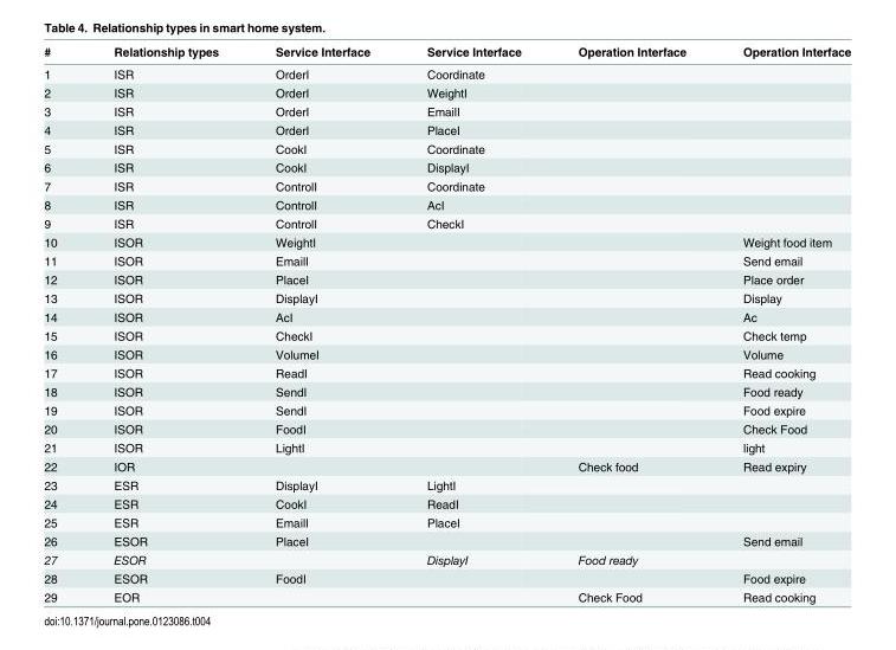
<table><thead><tr><td>#</td><td>Relationship types</td><td>Service Interface</td><td>Service Interface</td><td>Operation Interface</td><td>Operation Interface</td></tr></thead><tbody><tr><td>1</td><td>ISR</td><td>OrderI</td><td>Coordinate</td><td></td><td></td></tr><tr><td>2</td><td>ISR</td><td>OrderI</td><td>WeightI</td><td></td><td></td></tr><tr><td>3</td><td>ISR</td><td>OrderI</td><td>EmailI</td><td></td><td></td></tr><tr><td>4</td><td>ISR</td><td>OrderI</td><td>PlaceI</td><td></td><td></td></tr><tr><td>5</td><td>ISR</td><td>CookI</td><td>Coordinate</td><td></td><td></td></tr><tr><td>6</td><td>ISR</td><td>CookI</td><td>DisplayI</td><td></td><td></td></tr><tr><td>7</td><td>ISR</td><td>ControlI</td><td>Coordinate</td><td></td><td></td></tr><tr><td>8</td><td>ISR</td><td>ControlI</td><td>AcI</td><td></td><td></td></tr><tr><td>9</td><td>ISR</td><td>ControlI</td><td>CheckI</td><td></td><td></td></tr><tr><td>10</td><td>ISOR</td><td>WeightI</td><td></td><td></td><td>Weight food item</td></tr><tr><td>11</td><td>ISOR</td><td>EmailI</td><td></td><td></td><td>Send email</td></tr><tr><td>12</td><td>ISOR</td><td>PlaceI</td><td></td><td></td><td>Place order</td></tr><tr><td>13</td><td>ISOR</td><td>DisplayI</td><td></td><td></td><td>Display</td></tr><tr><td>14</td><td>ISOR</td><td>AcI</td><td></td><td></td><td>Ac</td></tr><tr><td>15</td><td>ISOR</td><td>CheckI</td><td></td><td></td><td>Check temp</td></tr><tr><td>16</td><td>ISOR</td><td>VolumeI</td><td></td><td></td><td>Volume</td></tr><tr><td>17</td><td>ISOR</td><td>ReadI</td><td></td><td></td><td>Read cooking</td></tr><tr><td>18</td><td>ISOR</td><td>SendI</td><td></td><td></td><td>Food ready</td></tr><tr><td>19</td><td>ISOR</td><td>SendI</td><td></td><td></td><td>Food expire</td></tr><tr><td>20</td><td>ISOR</td><td>FoodI</td><td></td><td></td><td>Check Food</td></tr><tr><td>21</td><td>ISOR</td><td>LightI</td><td></td><td></td><td>light</td></tr><tr><td>22</td><td>IOR</td><td></td><td></td><td>Check food</td><td>Read expiry</td></tr><tr><td>23</td><td>ESR</td><td>DisplayI</td><td>LightI</td><td></td><td></td></tr><tr><td>24</td><td>ESR</td><td>CookI</td><td>ReadI</td><td></td><td></td></tr><tr><td>25</td><td>ESR</td><td>EmailI</td><td>PlaceI</td><td></td><td></td></tr><tr><td>26</td><td>ESOR</td><td>PlaceI</td><td></td><td></td><td>Send email</td></tr><tr><td>27</td><td>ESOR</td><td></td><td>DisplayI</td><td>Food ready</td><td></td></tr><tr><td>28</td><td>ESOR</td><td>FoodI</td><td></td><td></td><td>Food expire</td></tr><tr><td>29</td><td>EOR</td><td></td><td></td><td>Check Food</td><td>Read cooking</td></tr></tbody></table>